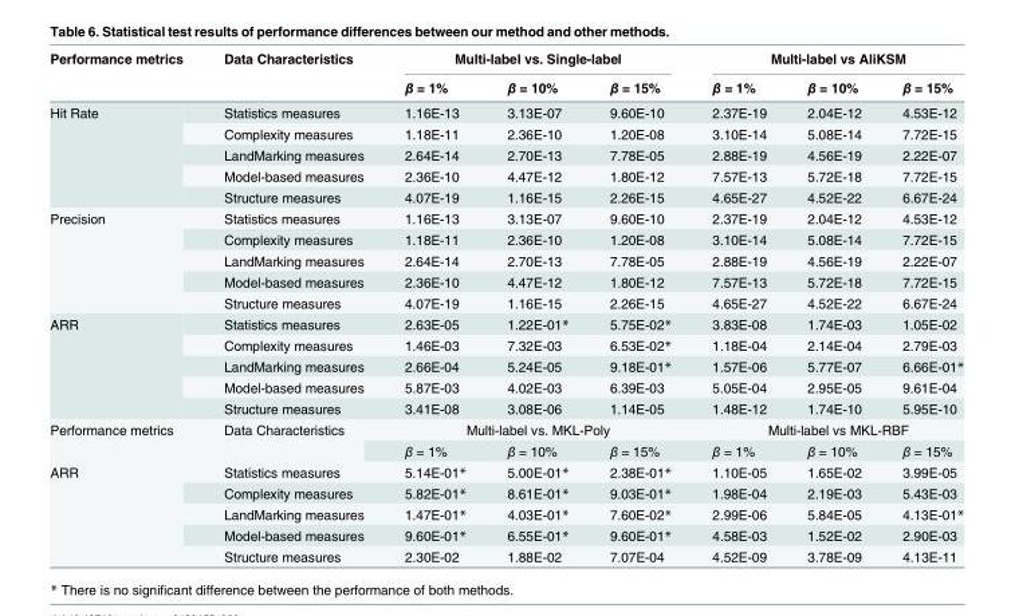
<table><thead><tr><td rowspan="2">Performance metrics</td><td rowspan="2">Data Characteristics</td><td colspan="3">Multi-label vs. Single-label</td><td colspan="3">Multi-label vs AliKSM</td></tr><tr><td>β = 1%</td><td>β = 10%</td><td>β = 15%</td><td>β = 1%</td><td>β = 10%</td><td>β = 15%</td></tr></thead><tbody><tr><td rowspan="5">Hit Rate</td><td>Statistics measures</td><td>1.16E-13</td><td>3.13E-07</td><td>9.60E-10</td><td>2.37E-19</td><td>2.04E-12</td><td>4.53E-12</td></tr><tr><td>Complexity measures</td><td>1.18E-11</td><td>2.36E-10</td><td>1.20E-08</td><td>3.10E-14</td><td>5.08E-14</td><td>7.72E-15</td></tr><tr><td>LandMarking measures</td><td>2.64E-14</td><td>2.70E-13</td><td>7.78E-05</td><td>2.88E-19</td><td>4.56E-19</td><td>2.22E-07</td></tr><tr><td>Model-based measures</td><td>2.36E-10</td><td>4.47E-12</td><td>1.80E-12</td><td>7.57E-13</td><td>5.72E-18</td><td>7.72E-15</td></tr><tr><td>Structure measures</td><td>4.07E-19</td><td>1.16E-15</td><td>2.26E-15</td><td>4.65E-27</td><td>4.52E-22</td><td>6.67E-24</td></tr><tr><td rowspan="5">Precision</td><td>Statistics measures</td><td>1.16E-13</td><td>3.13E-07</td><td>9.60E-10</td><td>2.37E-19</td><td>2.04E-12</td><td>4.53E-12</td></tr><tr><td>Complexity measures</td><td>1.18E-11</td><td>2.36E-10</td><td>1.20E-08</td><td>3.10E-14</td><td>5.08E-14</td><td>7.72E-15</td></tr><tr><td>LandMarking measures</td><td>2.64E-14</td><td>2.70E-13</td><td>7.78E-05</td><td>2.88E-19</td><td>4.56E-19</td><td>2.22E-07</td></tr><tr><td>Model-based measures</td><td>2.36E-10</td><td>4.47E-12</td><td>1.80E-12</td><td>7.57E-13</td><td>5.72E-18</td><td>7.72E-15</td></tr><tr><td>Structure measures</td><td>4.07E-19</td><td>1.16E-15</td><td>2.26E-15</td><td>4.65E-27</td><td>4.52E-22</td><td>6.67E-24</td></tr><tr><td rowspan="5">ARR</td><td>Statistics measures</td><td>2.63E-05</td><td>1.22E-01*</td><td>5.75E-02*</td><td>3.83E-08</td><td>1.74E-03</td><td>1.05E-02</td></tr><tr><td>Complexity measures</td><td>1.46E-03</td><td>7.32E-03</td><td>6.53E-02*</td><td>1.18E-04</td><td>2.14E-04</td><td>2.79E-03</td></tr><tr><td>LandMarking measures</td><td>2.66E-04</td><td>5.24E-05</td><td>9.18E-01*</td><td>1.57E-06</td><td>5.77E-07</td><td>6.66E-01*</td></tr><tr><td>Model-based measures</td><td>5.87E-03</td><td>4.02E-03</td><td>6.39E-03</td><td>5.05E-04</td><td>2.95E-05</td><td>9.61E-04</td></tr><tr><td>Structure measures</td><td>3.41E-08</td><td>3.08E-06</td><td>1.14E-05</td><td>1.48E-12</td><td>1.74E-10</td><td>5.95E-10</td></tr><tr><td rowspan="2">Performance metrics</td><td rowspan="2">Data Characteristics</td><td colspan="3">Multi-label vs. MKL-Poly</td><td colspan="3">Multi-label vs MKL-RBF</td></tr><tr><td>β = 1%</td><td>β = 10%</td><td>β = 15%</td><td>β = 1%</td><td>β = 10%</td><td>β = 15%</td></tr><tr><td rowspan="5">ARR</td><td>Statistics measures</td><td>5.14E-01*</td><td>5.00E-01*</td><td>2.38E-01*</td><td>1.10E-05</td><td>1.65E-02</td><td>3.99E-05</td></tr><tr><td>Complexity measures</td><td>5.82E-01*</td><td>8.61E-01*</td><td>9.03E-01*</td><td>1.98E-04</td><td>2.19E-03</td><td>5.43E-03</td></tr><tr><td>LandMarking measures</td><td>1.47E-01*</td><td>4.03E-01*</td><td>7.60E-02*</td><td>2.99E-06</td><td>5.84E-05</td><td>4.13E-01*</td></tr><tr><td>Model-based measures</td><td>9.60E-01*</td><td>6.55E-01*</td><td>9.60E-01*</td><td>4.58E-03</td><td>1.52E-02</td><td>2.90E-03</td></tr><tr><td>Structure measures</td><td>2.30E-02</td><td>1.88E-02</td><td>7.07E-04</td><td>4.52E-09</td><td>3.78E-09</td><td>4.13E-11</td></tr></tbody></table>